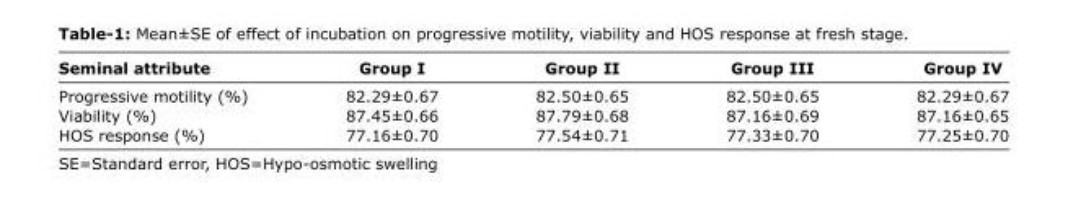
<table><thead><tr><td>Seminal attribute</td><td>Group I</td><td>Group II</td><td>Group III</td><td>Group IV</td></tr></thead><tbody><tr><td>Progressive motility (%)</td><td>82.29±0.67</td><td>82.50±0.65</td><td>82.50±0.65</td><td>82.29±0.67</td></tr><tr><td>Viability (%)</td><td>87.45±0.66</td><td>87.79±0.68</td><td>87.16±0.69</td><td>87.16±0.65</td></tr><tr><td>HOS response (%)</td><td>77.16±0.70</td><td>77.54±0.71</td><td>77.33±0.70</td><td>77.25±0.70</td></tr></tbody></table>